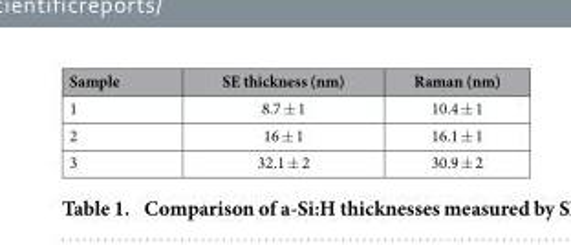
<table><thead><tr><td>Sample</td><td>SE thickness (nm)</td><td>Raman (nm)</td></tr></thead><tbody><tr><td>1</td><td>8.7 ± 1</td><td>10.4 ± 1</td></tr><tr><td>2</td><td>16 ± 1</td><td>16.1 ± 1</td></tr><tr><td>3</td><td>32.1 ± 2</td><td>30.9 ± 2</td></tr></tbody></table>